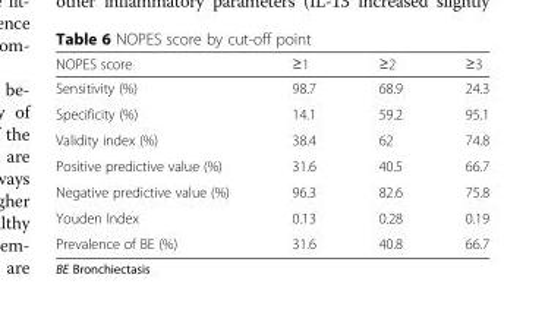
<table><thead><tr><td>NOPES score</td><td>≥1</td><td>≥2</td><td>≥3</td></tr></thead><tbody><tr><td>Sensitivity (%)</td><td>98.7</td><td>68.9</td><td>24.3</td></tr><tr><td>Specificity (%)</td><td>14.1</td><td>59.2</td><td>95.1</td></tr><tr><td>Validity index (%)</td><td>38.4</td><td>62</td><td>74.8</td></tr><tr><td>Positive predictive value (%)</td><td>31.6</td><td>40.5</td><td>66.7</td></tr><tr><td>Negative predictive value (%)</td><td>96.3</td><td>82.6</td><td>75.8</td></tr><tr><td>Youden Index</td><td>0.13</td><td>0.28</td><td>0.19</td></tr><tr><td>Prevalence of BE (%)</td><td>31.6</td><td>40.8</td><td>66.7</td></tr></tbody></table>